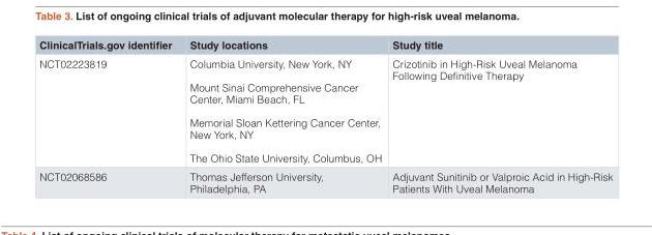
<table><thead><tr><td>ClinicalTrials.gov identifier</td><td>Study locations</td><td>Study title</td></tr></thead><tbody><tr><td>NCT02223819</td><td>Columbia University, New York, NY Mount Sinai Comprehensive Cancer Center, Miami Beach, FL Memorial Sloan Kettering Cancer Center, New York, NY The Ohio State University, Columbus, OH</td><td>Crizotinib in High-Risk Uveal Melanoma Following Definitive Therapy</td></tr><tr><td>NCT02068586</td><td>Thomas Jefferson University, Philadelphia, PA</td><td>Adjuvant Sunitinib or Valproic Acid in High-Risk Patients With Uveal Melanoma</td></tr></tbody></table>